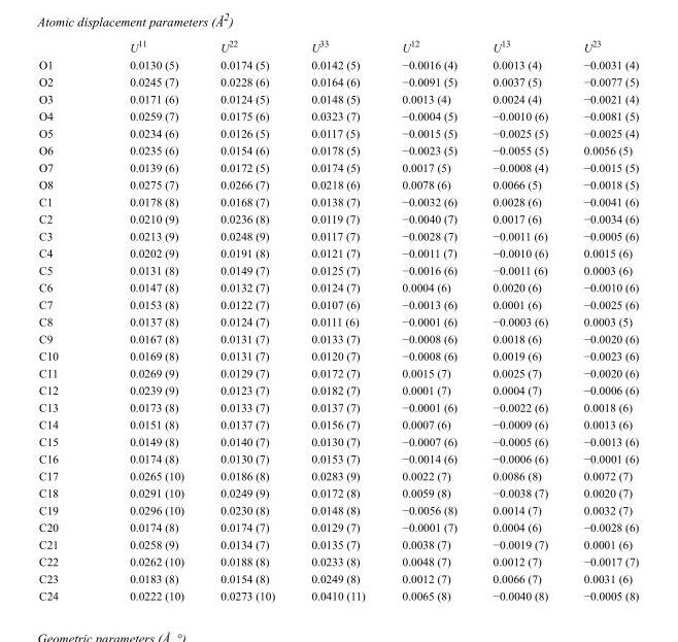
<table><thead><tr><td></td><td>U<sup>11</sup></td><td>U<sup>22</sup></td><td>U<sup>33</sup></td><td>U<sup>12</sup></td><td>U<sup>13</sup></td><td>U<sup>23</sup></td></tr></thead><tbody><tr><td>O1</td><td>0.0130 (5)</td><td>0.0174 (5)</td><td>0.0142 (5)</td><td>−0.0016 (4)</td><td>0.0013 (4)</td><td>−0.0031 (4)</td></tr><tr><td>O2</td><td>0.0245 (7)</td><td>0.0228 (6)</td><td>0.0164 (6)</td><td>−0.0091 (5)</td><td>0.0037 (5)</td><td>−0.0077 (5)</td></tr><tr><td>O3</td><td>0.0171 (6)</td><td>0.0124 (5)</td><td>0.0148 (5)</td><td>0.0013 (4)</td><td>0.0024 (4)</td><td>−0.0021 (4)</td></tr><tr><td>O4</td><td>0.0259 (7)</td><td>0.0175 (6)</td><td>0.0323 (7)</td><td>−0.0004 (5)</td><td>−0.0010 (6)</td><td>−0.0081 (5)</td></tr><tr><td>O5</td><td>0.0234 (6)</td><td>0.0126 (5)</td><td>0.0117 (5)</td><td>−0.0015 (5)</td><td>−0.0025 (5)</td><td>−0.0025 (4)</td></tr><tr><td>O6</td><td>0.0235 (6)</td><td>0.0154 (6)</td><td>0.0178 (5)</td><td>−0.0023 (5)</td><td>−0.0055 (5)</td><td>0.0056 (5)</td></tr><tr><td>O7</td><td>0.0139 (6)</td><td>0.0172 (5)</td><td>0.0174 (5)</td><td>0.0017 (5)</td><td>−0.0008 (4)</td><td>−0.0015 (5)</td></tr><tr><td>O8</td><td>0.0275 (7)</td><td>0.0266 (7)</td><td>0.0218 (6)</td><td>0.0078 (6)</td><td>0.0066 (5)</td><td>−0.0018 (5)</td></tr><tr><td>C1</td><td>0.0178 (8)</td><td>0.0168 (7)</td><td>0.0138 (7)</td><td>−0.0032 (6)</td><td>0.0028 (6)</td><td>−0.0041 (6)</td></tr><tr><td>C2</td><td>0.0210 (9)</td><td>0.0236 (8)</td><td>0.0119 (7)</td><td>−0.0040 (7)</td><td>0.0017 (6)</td><td>−0.0034 (6)</td></tr><tr><td>C3</td><td>0.0213 (9)</td><td>0.0248 (9)</td><td>0.0117 (7)</td><td>−0.0028 (7)</td><td>−0.0011 (6)</td><td>−0.0005 (6)</td></tr><tr><td>C4</td><td>0.0202 (9)</td><td>0.0191 (8)</td><td>0.0121 (7)</td><td>−0.0011 (7)</td><td>−0.0010 (6)</td><td>0.0015 (6)</td></tr><tr><td>C5</td><td>0.0131 (8)</td><td>0.0149 (7)</td><td>0.0125 (7)</td><td>−0.0016 (6)</td><td>−0.0011 (6)</td><td>0.0003 (6)</td></tr><tr><td>C6</td><td>0.0147 (8)</td><td>0.0132 (7)</td><td>0.0124 (7)</td><td>0.0004 (6)</td><td>0.0020 (6)</td><td>−0.0010 (6)</td></tr><tr><td>C7</td><td>0.0153 (8)</td><td>0.0122 (7)</td><td>0.0107 (6)</td><td>−0.0013 (6)</td><td>0.0001 (6)</td><td>−0.0025 (6)</td></tr><tr><td>C8</td><td>0.0137 (8)</td><td>0.0124 (7)</td><td>0.0111 (6)</td><td>−0.0001 (6)</td><td>−0.0003 (6)</td><td>0.0003 (5)</td></tr><tr><td>C9</td><td>0.0167 (8)</td><td>0.0131 (7)</td><td>0.0133 (7)</td><td>−0.0008 (6)</td><td>0.0018 (6)</td><td>−0.0020 (6)</td></tr><tr><td>C10</td><td>0.0169 (8)</td><td>0.0131 (7)</td><td>0.0120 (7)</td><td>−0.0008 (6)</td><td>0.0019 (6)</td><td>−0.0023 (6)</td></tr><tr><td>C11</td><td>0.0269 (9)</td><td>0.0129 (7)</td><td>0.0172 (7)</td><td>0.0015 (7)</td><td>0.0025 (7)</td><td>−0.0020 (6)</td></tr><tr><td>C12</td><td>0.0239 (9)</td><td>0.0123 (7)</td><td>0.0182 (7)</td><td>0.0001 (7)</td><td>0.0004 (7)</td><td>−0.0006 (6)</td></tr><tr><td>C13</td><td>0.0173 (8)</td><td>0.0133 (7)</td><td>0.0137 (7)</td><td>−0.0001 (6)</td><td>−0.0022 (6)</td><td>0.0018 (6)</td></tr><tr><td>C14</td><td>0.0151 (8)</td><td>0.0137 (7)</td><td>0.0156 (7)</td><td>0.0007 (6)</td><td>−0.0009 (6)</td><td>0.0013 (6)</td></tr><tr><td>C15</td><td>0.0149 (8)</td><td>0.0140 (7)</td><td>0.0130 (7)</td><td>−0.0007 (6)</td><td>−0.0005 (6)</td><td>−0.0013 (6)</td></tr><tr><td>C16</td><td>0.0174 (8)</td><td>0.0130 (7)</td><td>0.0153 (7)</td><td>−0.0014 (6)</td><td>−0.0006 (6)</td><td>−0.0001 (6)</td></tr><tr><td>C17</td><td>0.0265 (10)</td><td>0.0186 (8)</td><td>0.0283 (9)</td><td>0.0022 (7)</td><td>0.0086 (8)</td><td>0.0072 (7)</td></tr><tr><td>C18</td><td>0.0291 (10)</td><td>0.0249 (9)</td><td>0.0172 (8)</td><td>0.0059 (8)</td><td>−0.0038 (7)</td><td>0.0020 (7)</td></tr><tr><td>C19</td><td>0.0296 (10)</td><td>0.0230 (8)</td><td>0.0148 (8)</td><td>−0.0056 (8)</td><td>0.0014 (7)</td><td>0.0032 (7)</td></tr><tr><td>C20</td><td>0.0174 (8)</td><td>0.0174 (7)</td><td>0.0129 (7)</td><td>−0.0001 (7)</td><td>0.0004 (6)</td><td>−0.0028 (6)</td></tr><tr><td>C21</td><td>0.0258 (9)</td><td>0.0134 (7)</td><td>0.0135 (7)</td><td>0.0038 (7)</td><td>−0.0019 (7)</td><td>0.0001 (6)</td></tr><tr><td>C22</td><td>0.0262 (10)</td><td>0.0188 (8)</td><td>0.0233 (8)</td><td>0.0048 (7)</td><td>0.0012 (7)</td><td>−0.0017 (7)</td></tr><tr><td>C23</td><td>0.0183 (8)</td><td>0.0154 (8)</td><td>0.0249 (8)</td><td>0.0012 (7)</td><td>0.0066 (7)</td><td>0.0031 (6)</td></tr><tr><td>C24</td><td>0.0222 (10)</td><td>0.0273 (10)</td><td>0.0410 (11)</td><td>0.0065 (8)</td><td>−0.0040 (8)</td><td>−0.0005 (8)</td></tr></tbody></table>